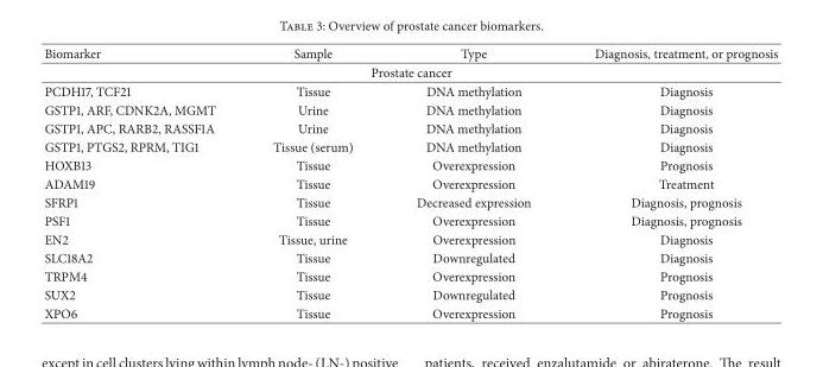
<table><thead><tr><td>Biomarker</td><td>Sample</td><td>Type</td><td>Diagnosis, treatment, or prognosis</td></tr></thead><tbody><tr><td colspan="4">Prostate cancer</td></tr><tr><td>PCDH17, TCF21</td><td>Tissue</td><td>DNA methylation</td><td>Diagnosis</td></tr><tr><td>GSTP1, ARF, CDNK2A, MGMT</td><td>Urine</td><td>DNA methylation</td><td>Diagnosis</td></tr><tr><td>GSTP1, APC, RARB2, RASSF1A</td><td>Urine</td><td>DNA methylation</td><td>Diagnosis</td></tr><tr><td>GSTP1, PTGS2, RPRM, TIG1</td><td>Tissue (serum)</td><td>DNA methylation</td><td>Diagnosis</td></tr><tr><td>HOXB13</td><td>Tissue</td><td>Overexpression</td><td>Prognosis</td></tr><tr><td>ADAM19</td><td>Tissue</td><td>Overexpression</td><td>Treatment</td></tr><tr><td>SFRP1</td><td>Tissue</td><td>Decreased expression</td><td>Diagnosis, prognosis</td></tr><tr><td>PSF1</td><td>Tissue</td><td>Overexpression</td><td>Diagnosis, prognosis</td></tr><tr><td>EN2</td><td>Tissue, urine</td><td>Overexpression</td><td>Diagnosis</td></tr><tr><td>SLC18A2</td><td>Tissue</td><td>Downregulated</td><td>Diagnosis</td></tr><tr><td>TRPM4</td><td>Tissue</td><td>Overexpression</td><td>Prognosis</td></tr><tr><td>SUX2</td><td>Tissue</td><td>Downregulated</td><td>Prognosis</td></tr><tr><td>XPO6</td><td>Tissue</td><td>Overexpression</td><td>Prognosis</td></tr></tbody></table>